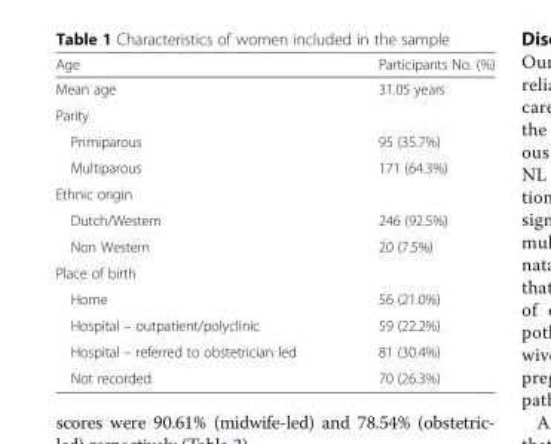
<table><thead><tr><td>Age</td><td>Participants No. (%)</td></tr></thead><tbody><tr><td>Mean age</td><td>31.05 years</td></tr><tr><td colspan="2">Parity</td></tr><tr><td>Primiparous</td><td>95 (35.7%)</td></tr><tr><td>Multiparous</td><td>171 (64.3%)</td></tr><tr><td colspan="2">Ethnic origin</td></tr><tr><td>Dutch/Western</td><td>246 (92.5%)</td></tr><tr><td>Non Western</td><td>20 (7.5%)</td></tr><tr><td colspan="2">Place of birth</td></tr><tr><td>Home</td><td>56 (21.0%)</td></tr><tr><td>Hospital – outpatient/polyclinic</td><td>59 (22.2%)</td></tr><tr><td>Hospital – referred to obstetrician led</td><td>81 (30.4%)</td></tr><tr><td>Not recorded</td><td>70 (26.3%)</td></tr></tbody></table>